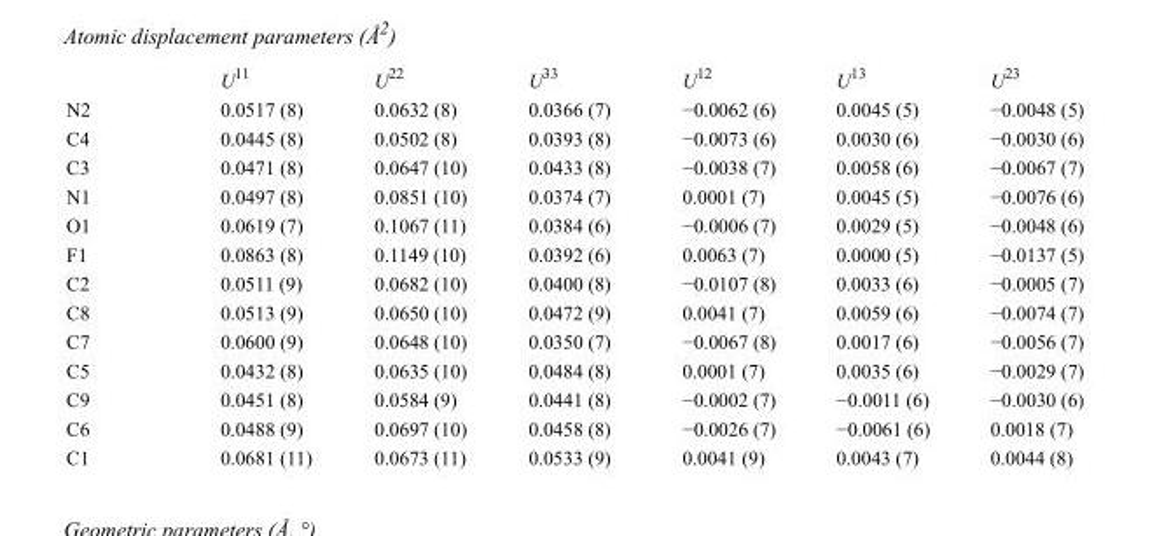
<table><thead><tr><td></td><td>U<sup>11</sup></td><td>U<sup>22</sup></td><td>U<sup>33</sup></td><td>U<sup>12</sup></td><td>U<sup>13</sup></td><td>U<sup>23</sup></td></tr></thead><tbody><tr><td>N2</td><td>0.0517 (8)</td><td>0.0632 (8)</td><td>0.0366 (7)</td><td>−0.0062 (6)</td><td>0.0045 (5)</td><td>−0.0048 (5)</td></tr><tr><td>C4</td><td>0.0445 (8)</td><td>0.0502 (8)</td><td>0.0393 (8)</td><td>−0.0073 (6)</td><td>0.0030 (6)</td><td>−0.0030 (6)</td></tr><tr><td>C3</td><td>0.0471 (8)</td><td>0.0647 (10)</td><td>0.0433 (8)</td><td>−0.0038 (7)</td><td>0.0058 (6)</td><td>−0.0067 (7)</td></tr><tr><td>N1</td><td>0.0497 (8)</td><td>0.0851 (10)</td><td>0.0374 (7)</td><td>0.0001 (7)</td><td>0.0045 (5)</td><td>−0.0076 (6)</td></tr><tr><td>O1</td><td>0.0619 (7)</td><td>0.1067 (11)</td><td>0.0384 (6)</td><td>−0.0006 (7)</td><td>0.0029 (5)</td><td>−0.0048 (6)</td></tr><tr><td>F1</td><td>0.0863 (8)</td><td>0.1149 (10)</td><td>0.0392 (6)</td><td>0.0063 (7)</td><td>0.0000 (5)</td><td>−0.0137 (5)</td></tr><tr><td>C2</td><td>0.0511 (9)</td><td>0.0682 (10)</td><td>0.0400 (8)</td><td>−0.0107 (8)</td><td>0.0033 (6)</td><td>−0.0005 (7)</td></tr><tr><td>C8</td><td>0.0513 (9)</td><td>0.0650 (10)</td><td>0.0472 (9)</td><td>0.0041 (7)</td><td>0.0059 (6)</td><td>−0.0074 (7)</td></tr><tr><td>C7</td><td>0.0600 (9)</td><td>0.0648 (10)</td><td>0.0350 (7)</td><td>−0.0067 (8)</td><td>0.0017 (6)</td><td>−0.0056 (7)</td></tr><tr><td>C5</td><td>0.0432 (8)</td><td>0.0635 (10)</td><td>0.0484 (8)</td><td>0.0001 (7)</td><td>0.0035 (6)</td><td>−0.0029 (7)</td></tr><tr><td>C9</td><td>0.0451 (8)</td><td>0.0584 (9)</td><td>0.0441 (8)</td><td>−0.0002 (7)</td><td>−0.0011 (6)</td><td>−0.0030 (6)</td></tr><tr><td>C6</td><td>0.0488 (9)</td><td>0.0697 (10)</td><td>0.0458 (8)</td><td>−0.0026 (7)</td><td>−0.0061 (6)</td><td>0.0018 (7)</td></tr><tr><td>C1</td><td>0.0681 (11)</td><td>0.0673 (11)</td><td>0.0533 (9)</td><td>0.0041 (9)</td><td>0.0043 (7)</td><td>0.0044 (8)</td></tr></tbody></table>